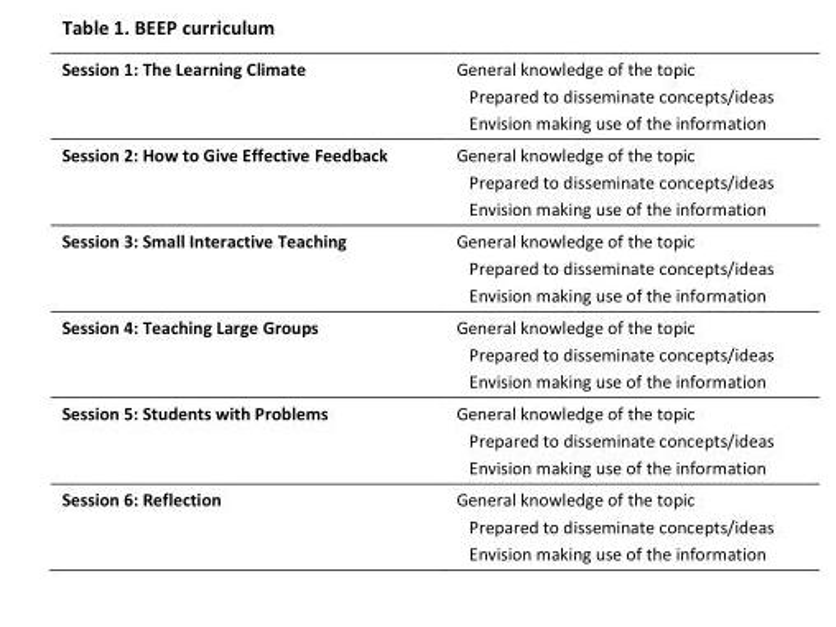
<table><tbody><tr><td rowspan="3">Session 1: The Learning Climate</td><td>General knowledge of the topic</td></tr><tr><td>Prepared to disseminate concepts/ideas</td></tr><tr><td>Envision making use of the information</td></tr><tr><td rowspan="3">Session 2: How to Give Effective Feedback</td><td>General knowledge of the topic</td></tr><tr><td>Prepared to disseminate concepts/ideas</td></tr><tr><td>Envision making use of the information</td></tr><tr><td rowspan="3">Session 3: Small Interactive Teaching</td><td>General knowledge of the topic</td></tr><tr><td>Prepared to disseminate concepts/ideas</td></tr><tr><td>Envision making use of the information</td></tr><tr><td rowspan="3">Session 4: Teaching Large Groups</td><td>General knowledge of the topic</td></tr><tr><td>Prepared to disseminate concepts/ideas</td></tr><tr><td>Envision making use of the information</td></tr><tr><td rowspan="3">Session 5: Students with Problems</td><td>General knowledge of the topic</td></tr><tr><td>Prepared to disseminate concepts/ideas</td></tr><tr><td>Envision making use of the information</td></tr><tr><td rowspan="3">Session 6: Reflection</td><td>General knowledge of the topic</td></tr><tr><td>Prepared to disseminate concepts/ideas</td></tr><tr><td>Envision making use of the information</td></tr></tbody></table>